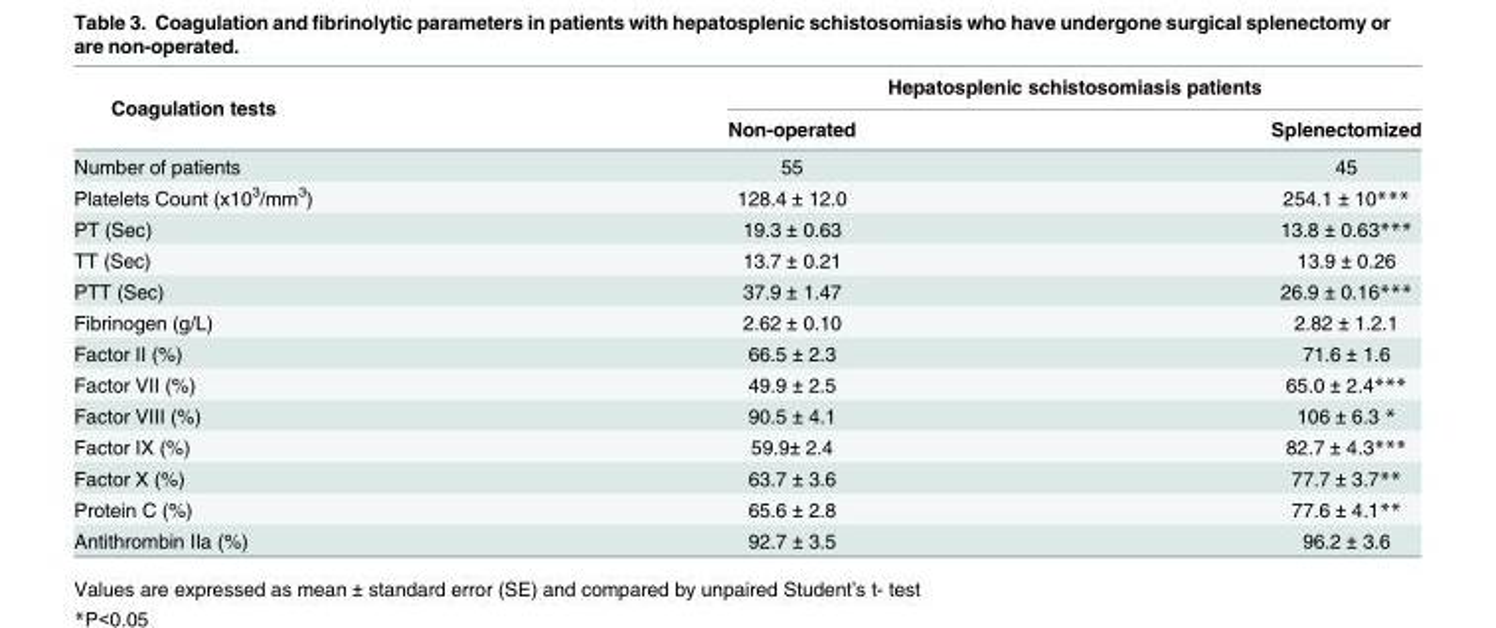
<table><thead><tr><td rowspan="2">Coagulation tests</td><td colspan="2">Hepatosplenic schistosomiasis patients</td></tr><tr><td>Non-operated</td><td>Splenectomized</td></tr></thead><tbody><tr><td>Number of patients</td><td>55</td><td>45</td></tr><tr><td>Platelets Count (x10<sup>3</sup>/mm<sup>3</sup>)</td><td>128.4 ± 12.0</td><td>254.1 ± 10***</td></tr><tr><td>PT (Sec)</td><td>19.3 ± 0.63</td><td>13.8 ± 0.63***</td></tr><tr><td>TT (Sec)</td><td>13.7 ± 0.21</td><td>13.9 ± 0.26</td></tr><tr><td>PTT (Sec)</td><td>37.9 ± 1.47</td><td>26.9 ± 0.16***</td></tr><tr><td>Fibrinogen (g/L)</td><td>2.62 ± 0.10</td><td>2.82 ± 1.2.1</td></tr><tr><td>Factor II (%)</td><td>66.5 ± 2.3</td><td>71.6 ± 1.6</td></tr><tr><td>Factor VII (%)</td><td>49.9 ± 2.5</td><td>65.0 ± 2.4***</td></tr><tr><td>Factor VIII (%)</td><td>90.5 ± 4.1</td><td>106 ± 6.3 *</td></tr><tr><td>Factor IX (%)</td><td>59.9± 2.4</td><td>82.7 ± 4.3***</td></tr><tr><td>Factor X (%)</td><td>63.7 ± 3.6</td><td>77.7 ± 3.7**</td></tr><tr><td>Protein C (%)</td><td>65.6 ± 2.8</td><td>77.6 ± 4.1**</td></tr><tr><td>Antithrombin IIa (%)</td><td>92.7 ± 3.5</td><td>96.2 ± 3.6</td></tr></tbody></table>